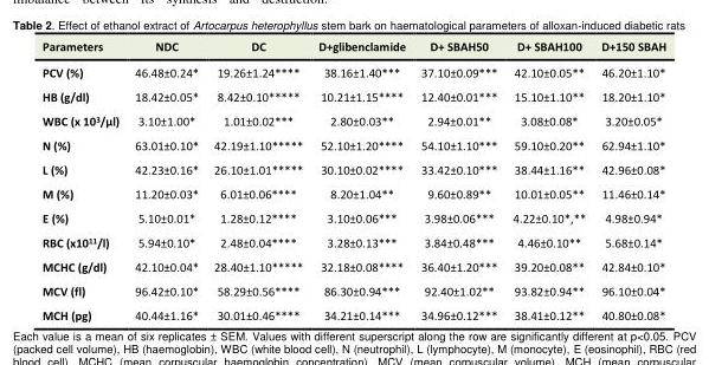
<table><tbody><tr><td>Parameters</td><td>NDC</td><td>DC</td><td>D+glibenclamide</td><td>D+ SBAH50</td><td>D+ SBAH100</td><td>D+150 SBAH</td></tr><tr><td>PCV (%)</td><td>46.48±0.24*</td><td>19.26±1.24****</td><td>38.16±1.40***</td><td>37.10±0.09***</td><td>42.10±0.05**</td><td>46.20±1.10*</td></tr><tr><td>HB (g/dl)</td><td>18.42±0.05*</td><td>8.42±0.10*****</td><td>10.21±1.15****</td><td>12.40±0.01***</td><td>15.10±1.10**</td><td>18.20±1.10*</td></tr><tr><td>WBC (x 10<sup>3</sup>/μl)</td><td>3.10±1.00*</td><td>1.01±0.02***</td><td>2.80±0.03**</td><td>2.94±0.01**</td><td>3.08±0.08*</td><td>3.20±0.05*</td></tr><tr><td>N (%)</td><td>63.01±0.10*</td><td>42.19±1.10*****</td><td>52.10±1.20****</td><td>54.10±1.10***</td><td>59.10±0.20**</td><td>62.94±1.10*</td></tr><tr><td>L (%)</td><td>42.23±0.16*</td><td>26.10±1.01*****</td><td>30.10±0.02****</td><td>33.42±0.10***</td><td>38.44±1.16**</td><td>42.96±0.08*</td></tr><tr><td>M (%)</td><td>11.20±0.03*</td><td>6.01±0.06****</td><td>8.20±1.04**</td><td>9.60±0.89**</td><td>10.01±0.05**</td><td>11.46±0.14*</td></tr><tr><td>E (%)</td><td>5.10±0.01*</td><td>1.28±0.12****</td><td>3.10±0.06***</td><td>3.98±0.06***</td><td>4.22±0.10*,**</td><td>4.98±0.94*</td></tr><tr><td>RBC (x10<sup>11</sup>/l)</td><td>5.94±0.10*</td><td>2.48±0.04****</td><td>3.28±0.13***</td><td>3.84±0.48***</td><td>4.46±0.10**</td><td>5.68±0.14*</td></tr><tr><td>MCHC (g/dl)</td><td>42.10±0.04*</td><td>28.40±1.10*****</td><td>32.18±0.08****</td><td>36.40±1.20***</td><td>39.20±0.08**</td><td>42.84±0.10*</td></tr><tr><td>MCV (fl)</td><td>96.42±0.10*</td><td>58.29±0.56****</td><td>86.30±0.94***</td><td>92.40±1.02**</td><td>93.82±0.94**</td><td>96.10±0.04*</td></tr><tr><td>MCH (pg)</td><td>40.44±1.16*</td><td>30.01±0.46****</td><td>34.21±0.14***</td><td>34.96±0.12***</td><td>38.41±0.12**</td><td>40.80±0.08*</td></tr></tbody></table>